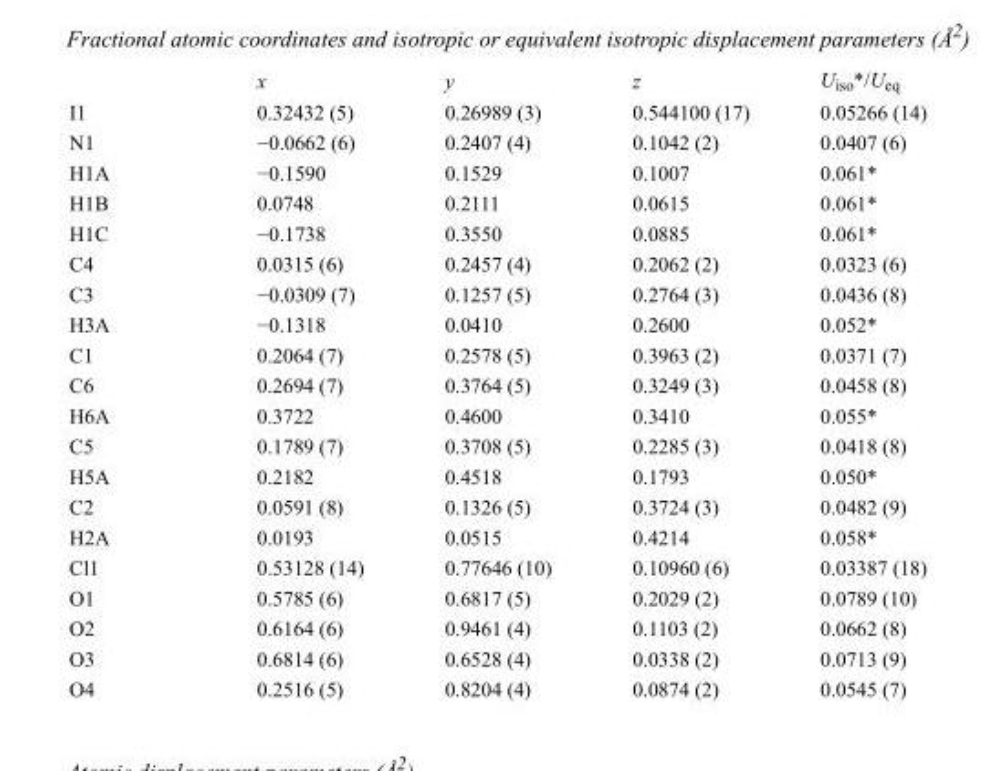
<table><thead><tr><td></td><td>x</td><td>y</td><td>z</td><td>U<sub>iso</sub>*/U<sub>eq</sub></td></tr></thead><tbody><tr><td>I1</td><td>0.32432 (5)</td><td>0.26989 (3)</td><td>0.544100 (17)</td><td>0.05266 (14)</td></tr><tr><td>N1</td><td>−0.0662 (6)</td><td>0.2407 (4)</td><td>0.1042 (2)</td><td>0.0407 (6)</td></tr><tr><td>H1A</td><td>−0.1590</td><td>0.1529</td><td>0.1007</td><td>0.061*</td></tr><tr><td>H1B</td><td>0.0748</td><td>0.2111</td><td>0.0615</td><td>0.061*</td></tr><tr><td>H1C</td><td>−0.1738</td><td>0.3550</td><td>0.0885</td><td>0.061*</td></tr><tr><td>C4</td><td>0.0315 (6)</td><td>0.2457 (4)</td><td>0.2062 (2)</td><td>0.0323 (6)</td></tr><tr><td>C3</td><td>−0.0309 (7)</td><td>0.1257 (5)</td><td>0.2764 (3)</td><td>0.0436 (8)</td></tr><tr><td>H3A</td><td>−0.1318</td><td>0.0410</td><td>0.2600</td><td>0.052*</td></tr><tr><td>C1</td><td>0.2064 (7)</td><td>0.2578 (5)</td><td>0.3963 (2)</td><td>0.0371 (7)</td></tr><tr><td>C6</td><td>0.2694 (7)</td><td>0.3764 (5)</td><td>0.3249 (3)</td><td>0.0458 (8)</td></tr><tr><td>H6A</td><td>0.3722</td><td>0.4600</td><td>0.3410</td><td>0.055*</td></tr><tr><td>C5</td><td>0.1789 (7)</td><td>0.3708 (5)</td><td>0.2285 (3)</td><td>0.0418 (8)</td></tr><tr><td>H5A</td><td>0.2182</td><td>0.4518</td><td>0.1793</td><td>0.050*</td></tr><tr><td>C2</td><td>0.0591 (8)</td><td>0.1326 (5)</td><td>0.3724 (3)</td><td>0.0482 (9)</td></tr><tr><td>H2A</td><td>0.0193</td><td>0.0515</td><td>0.4214</td><td>0.058*</td></tr><tr><td>Cl1</td><td>0.53128 (14)</td><td>0.77646 (10)</td><td>0.10960 (6)</td><td>0.03387 (18)</td></tr><tr><td>O1</td><td>0.5785 (6)</td><td>0.6817 (5)</td><td>0.2029 (2)</td><td>0.0789 (10)</td></tr><tr><td>O2</td><td>0.6164 (6)</td><td>0.9461 (4)</td><td>0.1103 (2)</td><td>0.0662 (8)</td></tr><tr><td>O3</td><td>0.6814 (6)</td><td>0.6528 (4)</td><td>0.0338 (2)</td><td>0.0713 (9)</td></tr><tr><td>O4</td><td>0.2516 (5)</td><td>0.8204 (4)</td><td>0.0874 (2)</td><td>0.0545 (7)</td></tr></tbody></table>